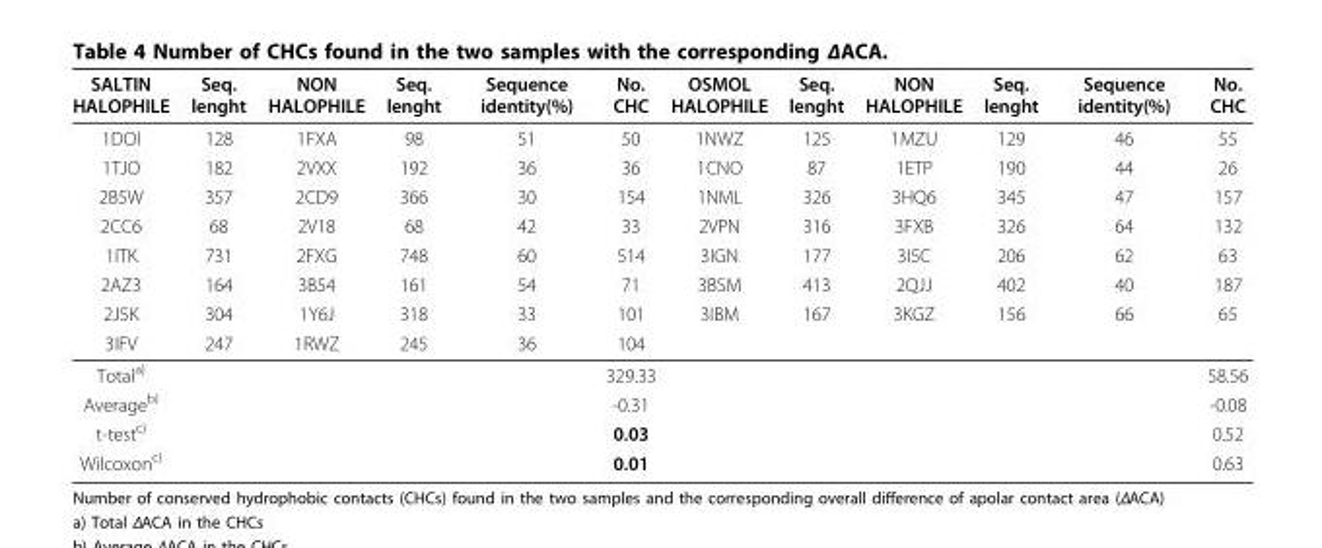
<table><thead><tr><td>SALTIN HALOPHILE</td><td>Seq. lenght</td><td>NON HALOPHILE</td><td>Seq. lenght</td><td>Sequence identity(%)</td><td>No. CHC</td><td>OSMOL HALOPHILE</td><td>Seq. lenght</td><td>NON HALOPHILE</td><td>Seq. lenght</td><td>Sequence identity(%)</td><td>No. CHC</td></tr></thead><tbody><tr><td>1DOI</td><td>128</td><td>1FXA</td><td>98</td><td>51</td><td>50</td><td>1NWZ</td><td>125</td><td>1MZU</td><td>129</td><td>46</td><td>55</td></tr><tr><td>1TJO</td><td>182</td><td>2VXX</td><td>192</td><td>36</td><td>36</td><td>1CNO</td><td>87</td><td>1ETP</td><td>190</td><td>44</td><td>26</td></tr><tr><td>2B5W</td><td>357</td><td>2CD9</td><td>366</td><td>30</td><td>154</td><td>1NML</td><td>326</td><td>3HQ6</td><td>345</td><td>47</td><td>157</td></tr><tr><td>2CC6</td><td>68</td><td>2V18</td><td>68</td><td>42</td><td>33</td><td>2VPN</td><td>316</td><td>3FXB</td><td>326</td><td>64</td><td>132</td></tr><tr><td>1ITK</td><td>731</td><td>2FXG</td><td>748</td><td>60</td><td>514</td><td>3IGN</td><td>177</td><td>3I5C</td><td>206</td><td>62</td><td>63</td></tr><tr><td>2AZ3</td><td>164</td><td>3B54</td><td>161</td><td>54</td><td>71</td><td>3BSM</td><td>413</td><td>2QJJ</td><td>402</td><td>40</td><td>187</td></tr><tr><td>2J5K</td><td>304</td><td>1Y6J</td><td>318</td><td>33</td><td>101</td><td>3IBM</td><td>167</td><td>3KGZ</td><td>156</td><td>66</td><td>65</td></tr><tr><td>3IFV</td><td>247</td><td>1RWZ</td><td>245</td><td>36</td><td>104</td><td></td><td></td><td></td><td></td><td></td><td></td></tr><tr><td>Total<sup>a)</sup></td><td></td><td></td><td></td><td></td><td>329.33</td><td></td><td></td><td></td><td></td><td></td><td>58.56</td></tr><tr><td>Average<sup>b)</sup></td><td></td><td></td><td></td><td></td><td>-0.31</td><td></td><td></td><td></td><td></td><td></td><td>-0.08</td></tr><tr><td>t-test<sup>c)</sup></td><td></td><td></td><td></td><td></td><td>0.03</td><td></td><td></td><td></td><td></td><td></td><td>0.52</td></tr><tr><td>Wilcoxon<sup>c)</sup></td><td></td><td></td><td></td><td></td><td>0.01</td><td></td><td></td><td></td><td></td><td></td><td>0.63</td></tr></tbody></table>